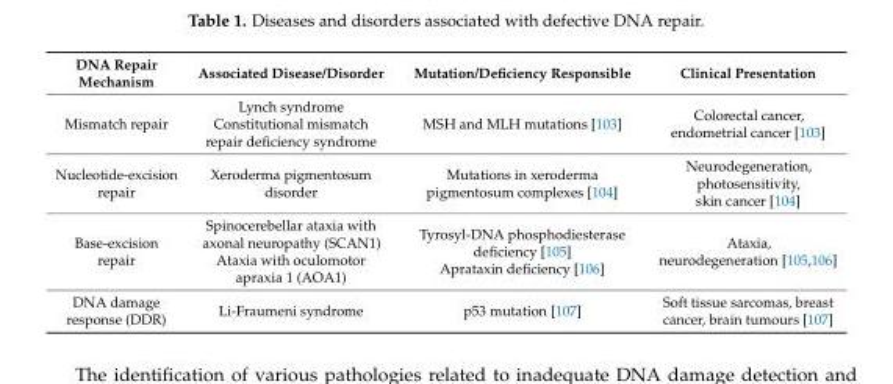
<table><thead><tr><td>DNA Repair Mechanism</td><td>Associated Disease/Disorder</td><td>Mutation/Deficiency Responsible</td><td>Clinical Presentation</td></tr></thead><tbody><tr><td>Mismatch repair</td><td>Lynch syndrome Constitutional mismatch repair deficiency syndrome</td><td>MSH and MLH mutations [103]</td><td>Colorectal cancer, endometrial cancer [103]</td></tr><tr><td>Nucleotide-excision repair</td><td>Xeroderma pigmentosum disorder</td><td>Mutations in xeroderma pigmentosum complexes [104]</td><td>Neurodegeneration, photosensitivity, skin cancer [104]</td></tr><tr><td>Base-excision repair</td><td>Spinocerebellar ataxia with axonal neuropathy (SCAN1) Ataxia with oculomotor apraxia 1 (AOA1)</td><td>Tyrosyl-DNA phosphodiesterase deficiency [105] Aprataxin deficiency [106]</td><td>Ataxia, neurodegeneration [105,106]</td></tr><tr><td>DNA damage response (DDR)</td><td>Li-Fraumeni syndrome</td><td>p53 mutation [107]</td><td>Soft tissue sarcomas, breast cancer, brain tumours [107]</td></tr></tbody></table>